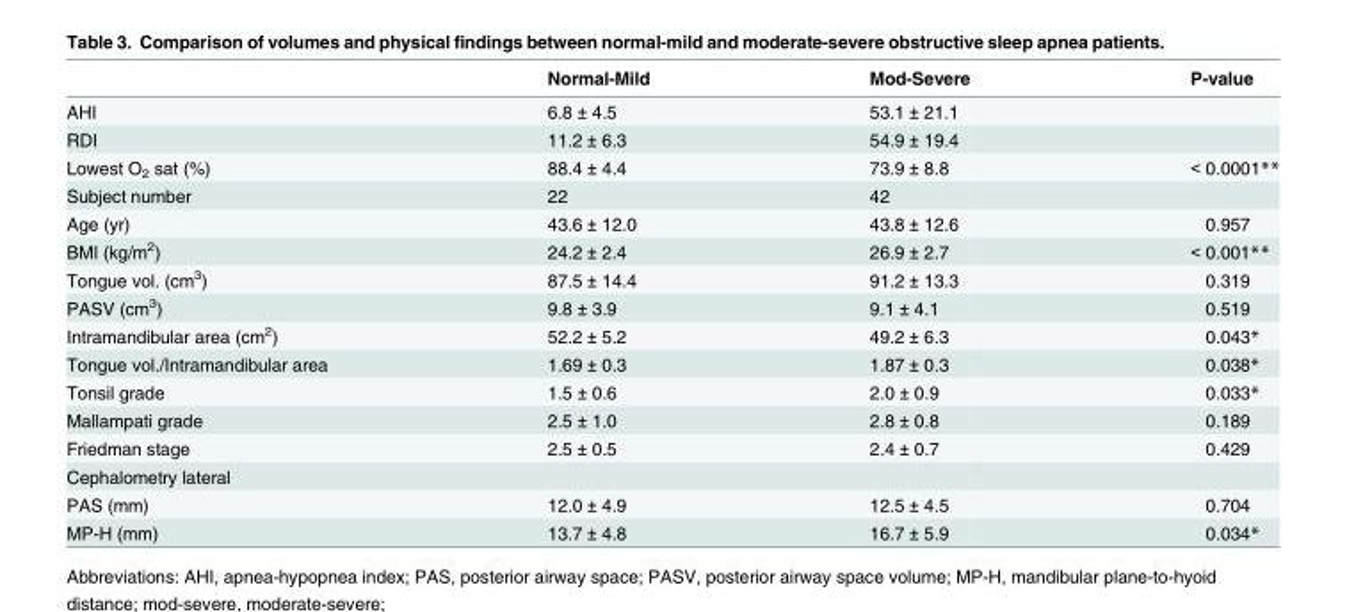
<table><thead><tr><td></td><td>Normal-Mild</td><td>Mod-Severe</td><td>P-value</td></tr></thead><tbody><tr><td>AHI</td><td>6.8 ± 4.5</td><td>53.1 ± 21.1</td><td></td></tr><tr><td>RDI</td><td>11.2 ± 6.3</td><td>54.9 ± 19.4</td><td></td></tr><tr><td>Lowest O<sub>2</sub> sat (%)</td><td>88.4 ± 4.4</td><td>73.9 ± 8.8</td><td>&lt; 0.0001**</td></tr><tr><td>Subject number</td><td>22</td><td>42</td><td></td></tr><tr><td>Age (yr)</td><td>43.6 ± 12.0</td><td>43.8 ± 12.6</td><td>0.957</td></tr><tr><td>BMI (kg/m<sup>2</sup>)</td><td>24.2 ± 2.4</td><td>26.9 ± 2.7</td><td>&lt; 0.001**</td></tr><tr><td>Tongue vol. (cm<sup>3</sup>)</td><td>87.5 ± 14.4</td><td>91.2 ± 13.3</td><td>0.319</td></tr><tr><td>PASV (cm<sup>3</sup>)</td><td>9.8 ± 3.9</td><td>9.1 ± 4.1</td><td>0.519</td></tr><tr><td>Intramandibular area (cm<sup>2</sup>)</td><td>52.2 ± 5.2</td><td>49.2 ± 6.3</td><td>0.043*</td></tr><tr><td>Tongue vol./Intramandibular area</td><td>1.69 ± 0.3</td><td>1.87 ± 0.3</td><td>0.038*</td></tr><tr><td>Tonsil grade</td><td>1.5 ± 0.6</td><td>2.0 ± 0.9</td><td>0.033*</td></tr><tr><td>Mallampati grade</td><td>2.5 ± 1.0</td><td>2.8 ± 0.8</td><td>0.189</td></tr><tr><td>Friedman stage</td><td>2.5 ± 0.5</td><td>2.4 ± 0.7</td><td>0.429</td></tr><tr><td colspan="4">Cephalometry lateral</td></tr><tr><td>PAS (mm)</td><td>12.0 ± 4.9</td><td>12.5 ± 4.5</td><td>0.704</td></tr><tr><td>MP-H (mm)</td><td>13.7 ± 4.8</td><td>16.7 ± 5.9</td><td>0.034*</td></tr></tbody></table>